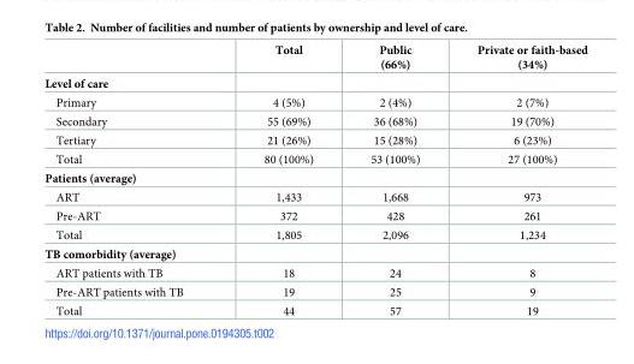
<table><thead><tr><td></td><td>Total</td><td>Public (66%)</td><td>Private or faith-based (34%)</td></tr></thead><tbody><tr><td colspan="4">Level of care</td></tr><tr><td>Primary</td><td>4 (5%)</td><td>2 (4%)</td><td>2 (7%)</td></tr><tr><td>Secondary</td><td>55 (69%)</td><td>36 (68%)</td><td>19 (70%)</td></tr><tr><td>Tertiary</td><td>21 (26%)</td><td>15 (28%)</td><td>6 (23%)</td></tr><tr><td>Total</td><td>80 (100%)</td><td>53 (100%)</td><td>27 (100%)</td></tr><tr><td colspan="4">Patients (average)</td></tr><tr><td>ART</td><td>1,433</td><td>1,668</td><td>973</td></tr><tr><td>Pre-ART</td><td>372</td><td>428</td><td>261</td></tr><tr><td>Total</td><td>1,805</td><td>2,096</td><td>1,234</td></tr><tr><td colspan="4">TB comorbidity (average)</td></tr><tr><td>ART patients with TB</td><td>18</td><td>24</td><td>8</td></tr><tr><td>Pre-ART patients with TB</td><td>19</td><td>25</td><td>9</td></tr><tr><td>Total</td><td>44</td><td>57</td><td>19</td></tr></tbody></table>